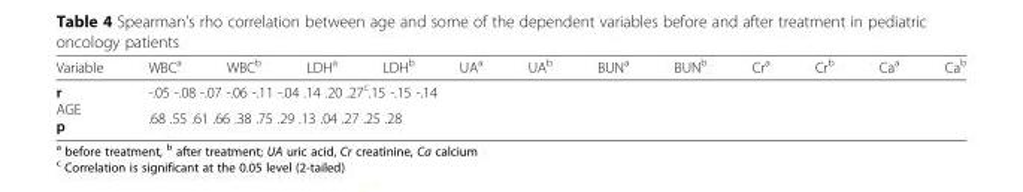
<table><thead><tr><td>Variable</td><td>WBC<sup>a</sup></td><td>WBC<sup>b</sup></td><td>LDH<sup>a</sup></td><td>LDH<sup>b</sup></td><td>UA<sup>a</sup></td><td>UA<sup>b</sup></td><td>BUN<sup>a</sup></td><td>BUN<sup>b</sup></td><td>Cr<sup>a</sup></td><td>Cr<sup>b</sup></td><td>Ca<sup>a</sup></td><td>Ca<sup>b</sup></td></tr></thead><tbody><tr><td rowspan="2">r AGE p</td><td colspan="12">-.05 -.08 -.07 -.06 -.11 -.04 .14 .20 .27<sup>c</sup>.15 -.15 -.14</td></tr><tr><td colspan="12">.68 .55 .61 .66 .38 .75 .29 .13 .04 .27 .25 .28</td></tr></tbody></table>